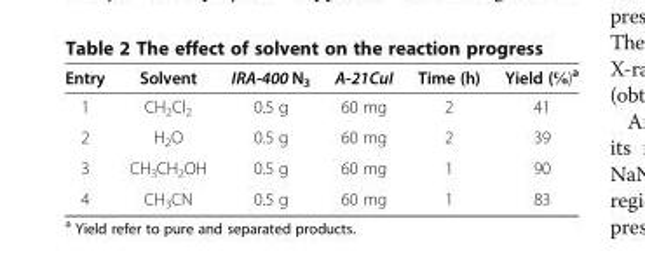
<table><thead><tr><td>Entry</td><td>Solvent</td><td>IRA-400 N<sub>3</sub></td><td>A-21CuI</td><td>Time (h)</td><td>Yield (℅)<sup>a</sup></td></tr></thead><tbody><tr><td>1</td><td>CH<sub>2</sub>Cl<sub>2</sub></td><td>0.5 g</td><td>60 mg</td><td>2</td><td>41</td></tr><tr><td>2</td><td>H<sub>2</sub>O</td><td>0.5 g</td><td>60 mg</td><td>2</td><td>39</td></tr><tr><td>3</td><td>CH<sub>3</sub>CH<sub>2</sub>OH</td><td>0.5 g</td><td>60 mg</td><td>1</td><td>90</td></tr><tr><td>4</td><td>CH<sub>3</sub>CN</td><td>0.5 g</td><td>60 mg</td><td>1</td><td>83</td></tr></tbody></table>